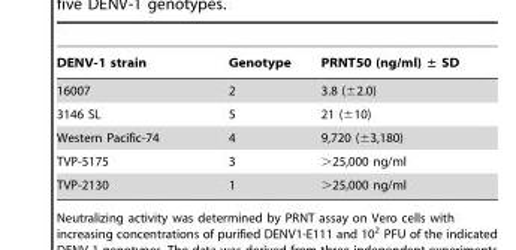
<table><thead><tr><td>DENV-1 strain</td><td>Genotype</td><td>PRNT50 (ng/ml) ± SD</td></tr></thead><tbody><tr><td>16007</td><td>2</td><td>3.8 (±2.0)</td></tr><tr><td>3146 SL</td><td>5</td><td>21 (±10)</td></tr><tr><td>Western Pacific-74</td><td>4</td><td>9,720 (±3,180)</td></tr><tr><td>TVP-5175</td><td>3</td><td>&gt;25,000 ng/ml</td></tr><tr><td>TVP-2130</td><td>1</td><td>&gt;25,000 ng/ml</td></tr></tbody></table>